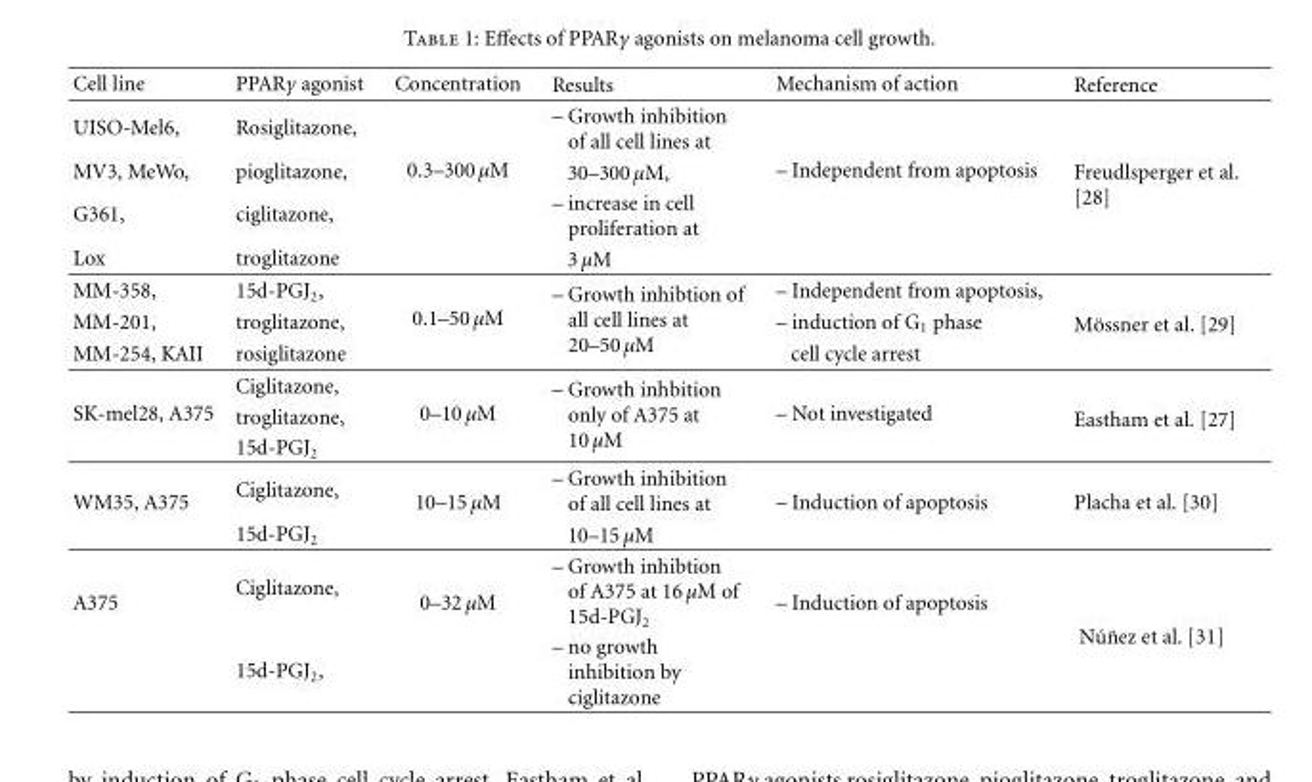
<table><thead><tr><td>Cell line</td><td>PPARγ agonist</td><td>Concentration</td><td>Results</td><td>Mechanism of action</td><td>Reference</td></tr></thead><tbody><tr><td>UISO-Mel6,</td><td>Rosiglitazone,</td><td rowspan="4">0.3–300 μM</td><td>– Growth inhibition of all cell lines at</td><td rowspan="4">– Independent from apoptosis</td><td rowspan="4">Freudlsperger et al. [28]</td></tr><tr><td>MV3, MeWo,</td><td>pioglitazone,</td><td>30–300 μM,</td></tr><tr><td>G361,</td><td>ciglitazone,</td><td>– increase in cell proliferation at</td></tr><tr><td>Lox</td><td>troglitazone</td><td>3 μM</td></tr><tr><td>MM-358,</td><td>15d-PGJ<sub>2</sub>,</td><td rowspan="3">0.1–50 μM</td><td rowspan="3">– Growth inhibtion of all cell lines at 20–50 μM</td><td>– Independent from apoptosis,</td><td rowspan="3">M¨ossner et al. [29]</td></tr><tr><td>MM-201,</td><td>troglitazone,</td><td>– induction of G<sub>1</sub> phase</td></tr><tr><td>MM-254, KAII</td><td>rosiglitazone</td><td>cell cycle arrest</td></tr><tr><td rowspan="3">SK-mel28, A375</td><td>Ciglitazone,</td><td rowspan="3">0–10 μM</td><td rowspan="3">– Growth inhbition only of A375 at 10 μM</td><td rowspan="3">– Not investigated</td><td rowspan="3">Eastham et al. [27]</td></tr><tr><td>troglitazone,</td></tr><tr><td>15d-PGJ<sub>2</sub></td></tr><tr><td rowspan="2">WM35, A375</td><td>Ciglitazone,</td><td rowspan="2">10–15 μM</td><td>– Growth inhibition of all cell lines at</td><td rowspan="2">– Induction of apoptosis</td><td rowspan="2">Placha et al. [30]</td></tr><tr><td>15d-PGJ<sub>2</sub></td><td>10–15 μM</td></tr><tr><td rowspan="2">A375</td><td>Ciglitazone,</td><td rowspan="2">0–32 μM</td><td>– Growth inhibtion of A375 at 16 μM of 15d-PGJ<sub>2</sub></td><td rowspan="2">– Induction of apoptosis</td><td rowspan="2">N´u˜nez et al. [31]</td></tr><tr><td>15d-PGJ<sub>2</sub>,</td><td>– no growth inhibition by ciglitazone</td></tr></tbody></table>